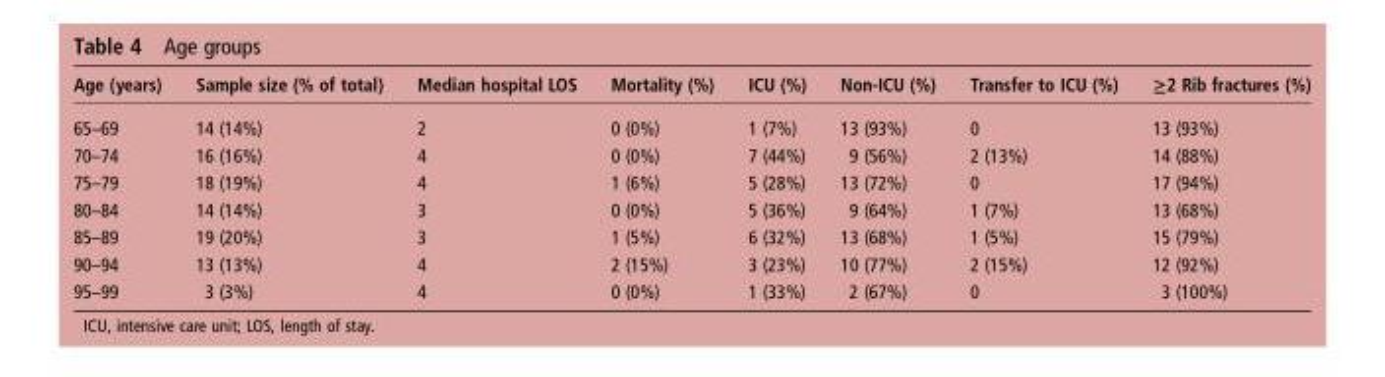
<table><thead><tr><td>Age (years)</td><td>Sample size (% of total)</td><td>Median hospital LOS</td><td>Mortality (%)</td><td>ICU (%)</td><td>Non-ICU (%)</td><td>Transfer to ICU (%)</td><td>≥2 Rib fractures (%)</td></tr></thead><tbody><tr><td>65–69</td><td>14 (14%)</td><td>2</td><td>0 (0%)</td><td>1 (7%)</td><td>13 (93%)</td><td>0</td><td>13 (93%)</td></tr><tr><td>70–74</td><td>16 (16%)</td><td>4</td><td>0 (0%)</td><td>7 (44%)</td><td>9 (56%)</td><td>2 (13%)</td><td>14 (88%)</td></tr><tr><td>75–79</td><td>18 (19%)</td><td>4</td><td>1 (6%)</td><td>5 (28%)</td><td>13 (72%)</td><td>0</td><td>17 (94%)</td></tr><tr><td>80–84</td><td>14 (14%)</td><td>3</td><td>0 (0%)</td><td>5 (36%)</td><td>9 (64%)</td><td>1 (7%)</td><td>13 (68%)</td></tr><tr><td>85–89</td><td>19 (20%)</td><td>3</td><td>1 (5%)</td><td>6 (32%)</td><td>13 (68%)</td><td>1 (5%)</td><td>15 (79%)</td></tr><tr><td>90–94</td><td>13 (13%)</td><td>4</td><td>2 (15%)</td><td>3 (23%)</td><td>10 (77%)</td><td>2 (15%)</td><td>12 (92%)</td></tr><tr><td>95–99</td><td>3 (3%)</td><td>4</td><td>0 (0%)</td><td>1 (33%)</td><td>2 (67%)</td><td>0</td><td>3 (100%)</td></tr></tbody></table>